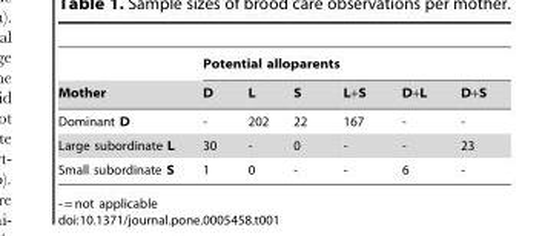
<table><thead><tr><td rowspan="2">Mother</td><td colspan="6">Potential alloparents</td></tr><tr><td>D</td><td>L</td><td>S</td><td>L+S</td><td>D+L</td><td>D+S</td></tr></thead><tbody><tr><td>Dominant D</td><td>-</td><td>202</td><td>22</td><td>167</td><td>-</td><td>-</td></tr><tr><td>Large subordinate L</td><td>30</td><td>-</td><td>0</td><td>-</td><td>-</td><td>23</td></tr><tr><td>Small subordinate S</td><td>1</td><td>0</td><td>-</td><td>-</td><td>6</td><td>-</td></tr></tbody></table>